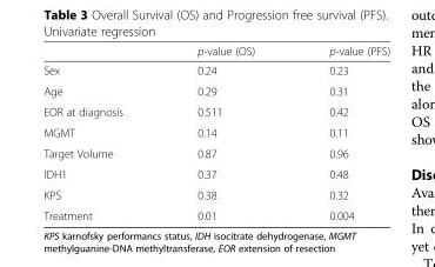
<table><thead><tr><td></td><td>p-value (OS)</td><td>p-value (PFS)</td></tr></thead><tbody><tr><td>Sex</td><td>0.24</td><td>0.23</td></tr><tr><td>Age</td><td>0.29</td><td>0.31</td></tr><tr><td>EOR at diagnosis</td><td>0.511</td><td>0.42</td></tr><tr><td>MGMT</td><td>0.14</td><td>0.11</td></tr><tr><td>Target Volume</td><td>0.87</td><td>0.96</td></tr><tr><td>IDH1</td><td>0.37</td><td>0.48</td></tr><tr><td>KPS</td><td>0.38</td><td>0.32</td></tr><tr><td>Treatment</td><td>0.01</td><td>0.004</td></tr></tbody></table>